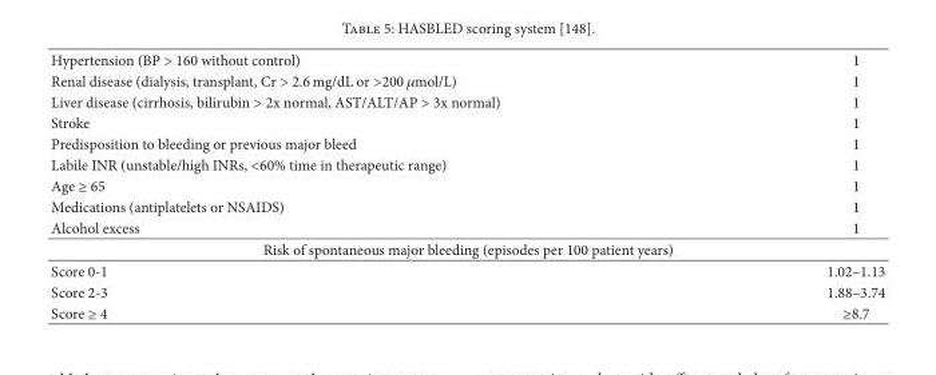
<table><tbody><tr><td>Hypertension (BP &gt; 160 without control)</td><td>1</td></tr><tr><td>Renal disease (dialysis, transplant, Cr &gt; 2.6 mg/dL or &gt;200 𝜇𝜇mol/L)</td><td>1</td></tr><tr><td>Liver disease (cirrhosis, bilirubin &gt; 2x normal, AST/ALT/AP &gt; 3x normal)</td><td>1</td></tr><tr><td>Stroke</td><td>1</td></tr><tr><td>Predisposition to bleeding or previous major bleed</td><td>1</td></tr><tr><td>Labile INR (unstable/high INRs, &lt;60% time in therapeutic range)</td><td>1</td></tr><tr><td>Age ≥ 65</td><td>1</td></tr><tr><td>Medications (antiplatelets or NSAIDS)</td><td>1</td></tr><tr><td>Alcohol excess</td><td>1</td></tr><tr><td colspan="2">Risk of spontaneous major bleeding (episodes per 100 patient years)</td></tr><tr><td>Score 0-1</td><td>1.02–1.13</td></tr><tr><td>Score 2-3</td><td>1.88–3.74</td></tr><tr><td>Score ≥ 4</td><td>≥8.7</td></tr></tbody></table>